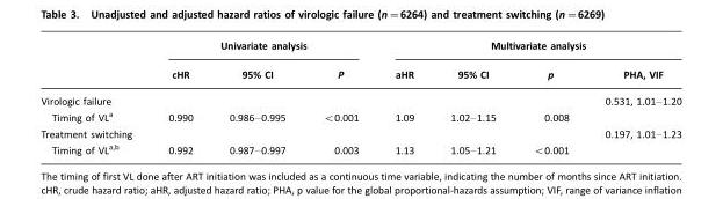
<table><thead><tr><td rowspan="2"></td><td colspan="3">Univariate analysis</td><td colspan="4">Multivariate analysis</td></tr><tr><td>cHR</td><td>95% CI</td><td>P</td><td>aHR</td><td>95% CI</td><td>p</td><td>PHA, VIF</td></tr></thead><tbody><tr><td>Virologic failure</td><td></td><td></td><td></td><td></td><td></td><td></td><td>0.531, 1.01–1.20</td></tr><tr><td>Timing of VL<sup>a</sup></td><td>0.990</td><td>0.986–0.995</td><td>&lt;0.001</td><td>1.09</td><td>1.02–1.15</td><td>0.008</td><td></td></tr><tr><td>Treatment switching</td><td></td><td></td><td></td><td></td><td></td><td></td><td>0.197, 1.01–1.23</td></tr><tr><td>Timing of VLa,b</td><td>0.992</td><td>0.987–0.997</td><td>0.003</td><td>1.13</td><td>1.05–1.21</td><td>&lt;0.001</td><td></td></tr></tbody></table>